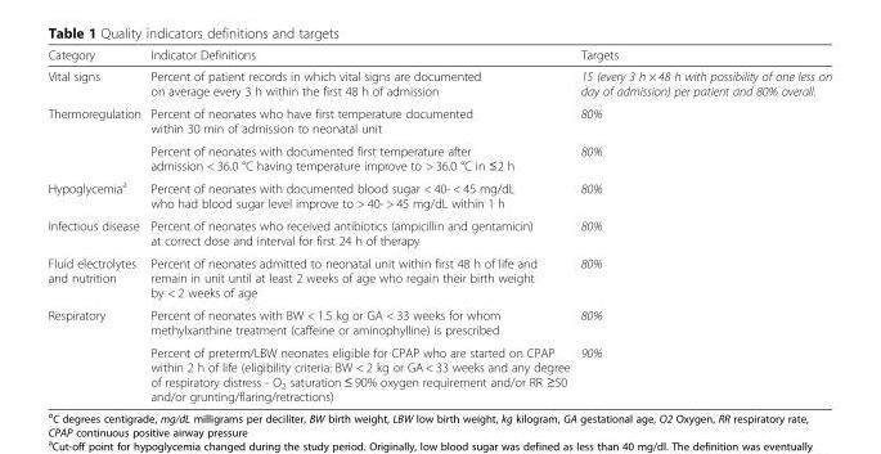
<table><thead><tr><td>Category</td><td>Indicator Definitions</td><td>Targets</td></tr></thead><tbody><tr><td>Vital signs</td><td>Percent of patient records in which vital signs are documented on average every 3 h within the first 48 h of admission</td><td>15 (every 3 h × 48 h with possibility of one less on day of admission) per patient and 80% overall.</td></tr><tr><td rowspan="2">Thermoregulation</td><td>Percent of neonates who have first temperature documented within 30 min of admission to neonatal unit</td><td>80%</td></tr><tr><td>Percent of neonates with documented first temperature after admission &lt; 36.0 °C having temperature improve to &gt; 36.0 °C in ≤2 h</td><td>80%</td></tr><tr><td>Hypoglycemia<sup>a</sup></td><td>Percent of neonates with documented blood sugar &lt; 40- &lt; 45 mg/dL who had blood sugar level improve to &gt; 40- &gt; 45 mg/dL within 1 h</td><td>80%</td></tr><tr><td>Infectious disease</td><td>Percent of neonates who received antibiotics (ampicillin and gentamicin) at correct dose and interval for first 24 h of therapy</td><td>80%</td></tr><tr><td>Fluid electrolytes and nutrition</td><td>Percent of neonates admitted to neonatal unit within first 48 h of life and remain in unit until at least 2 weeks of age who regain their birth weight by &lt; 2 weeks of age</td><td>80%</td></tr><tr><td rowspan="2">Respiratory</td><td>Percent of neonates with BW &lt; 1.5 kg or GA &lt; 33 weeks for whom methylxanthine treatment (caffeine or aminophylline) is prescribed</td><td>80%</td></tr><tr><td>Percent of preterm/LBW neonates eligible for CPAP who are started on CPAP within 2 h of life (eligibility criteria: BW &lt; 2 kg or GA &lt; 33 weeks and any degree of respiratory distress - O<sub>2</sub> saturation ≤ 90% oxygen requirement and/or RR ≥50 and/or grunting/flaring/retractions)</td><td>90%</td></tr></tbody></table>